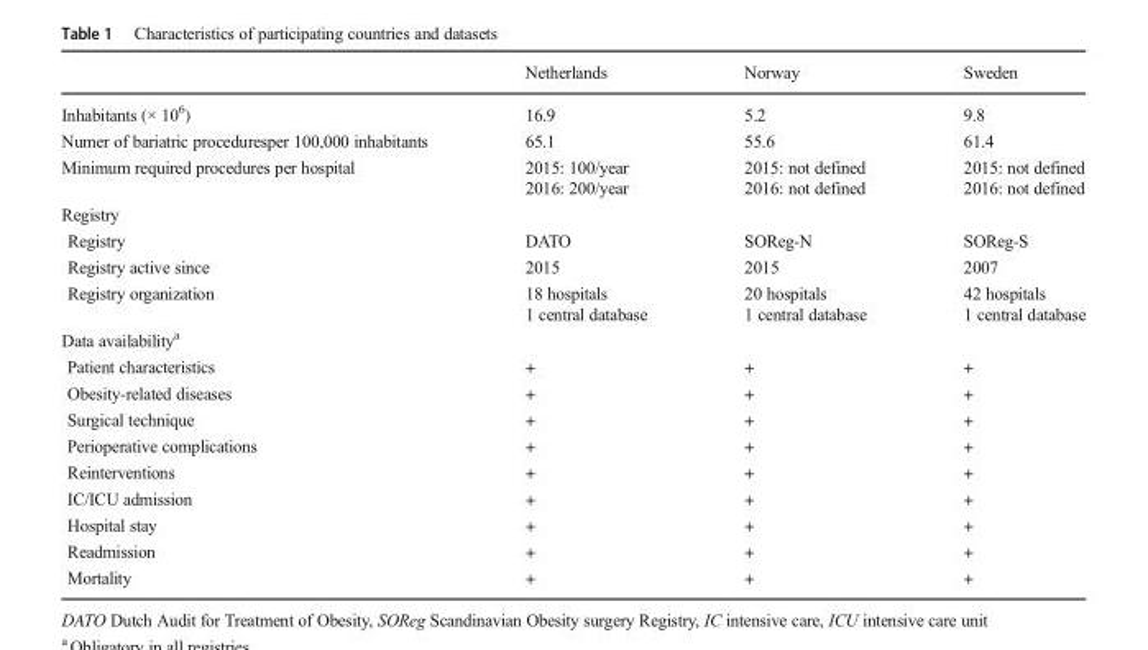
<table><thead><tr><td></td><td>Netherlands</td><td>Norway</td><td>Sweden</td></tr></thead><tbody><tr><td>Inhabitants (× 10<sup>6</sup>)</td><td>16.9</td><td>5.2</td><td>9.8</td></tr><tr><td>Numer of bariatric proceduresper 100,000 inhabitants</td><td>65.1</td><td>55.6</td><td>61.4</td></tr><tr><td>Minimum required procedures per hospital</td><td>2015: 100/year 2016: 200/year</td><td>2015: not defined 2016: not defined</td><td>2015: not defined 2016: not defined</td></tr><tr><td colspan="4">Registry</td></tr><tr><td>Registry</td><td>DATO</td><td>SOReg-N</td><td>SOReg-S</td></tr><tr><td>Registry active since</td><td>2015</td><td>2015</td><td>2007</td></tr><tr><td>Registry organization</td><td>18 hospitals 1 central database</td><td>20 hospitals 1 central database</td><td>42 hospitals 1 central database</td></tr><tr><td colspan="4">Data availability<sup>a</sup></td></tr><tr><td>Patient characteristics</td><td>+</td><td>+</td><td>+</td></tr><tr><td>Obesity-related diseases</td><td>+</td><td>+</td><td>+</td></tr><tr><td>Surgical technique</td><td>+</td><td>+</td><td>+</td></tr><tr><td>Perioperative complications</td><td>+</td><td>+</td><td>+</td></tr><tr><td>Reinterventions</td><td>+</td><td>+</td><td>+</td></tr><tr><td>IC/ICU admission</td><td>+</td><td>+</td><td>+</td></tr><tr><td>Hospital stay</td><td>+</td><td>+</td><td>+</td></tr><tr><td>Readmission</td><td>+</td><td>+</td><td>+</td></tr><tr><td>Mortality</td><td>+</td><td>+</td><td>+</td></tr></tbody></table>